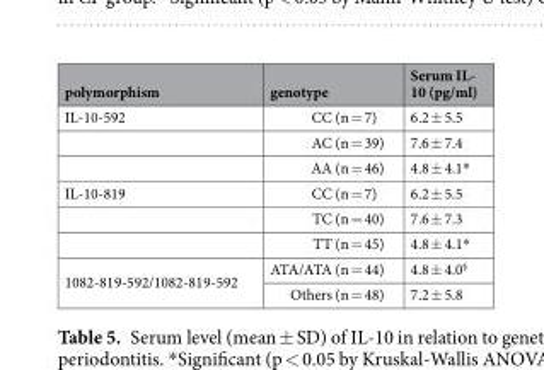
<table><thead><tr><td>polymorphism</td><td>genotype</td><td>Serum IL- 10 (pg/ml)</td></tr></thead><tbody><tr><td rowspan="3">IL-10-592</td><td>CC (n = 7)</td><td>6.2 ± 5.5</td></tr><tr><td>AC (n = 39)</td><td>7.6 ± 7.4</td></tr><tr><td>AA (n = 46)</td><td>4.8 ± 4.1*</td></tr><tr><td rowspan="3">IL-10-819</td><td>CC (n = 7)</td><td>6.2 ± 5.5</td></tr><tr><td>TC (n = 40)</td><td>7.6 ± 7.3</td></tr><tr><td>TT (n = 45)</td><td>4.8 ± 4.1*</td></tr><tr><td rowspan="2">1082-819-592/1082-819-592</td><td>ATA/ATA (n = 44)</td><td>4.8 ± 4.0<sup>§</sup></td></tr><tr><td>Others (n = 48)</td><td>7.2 ± 5.8</td></tr></tbody></table>